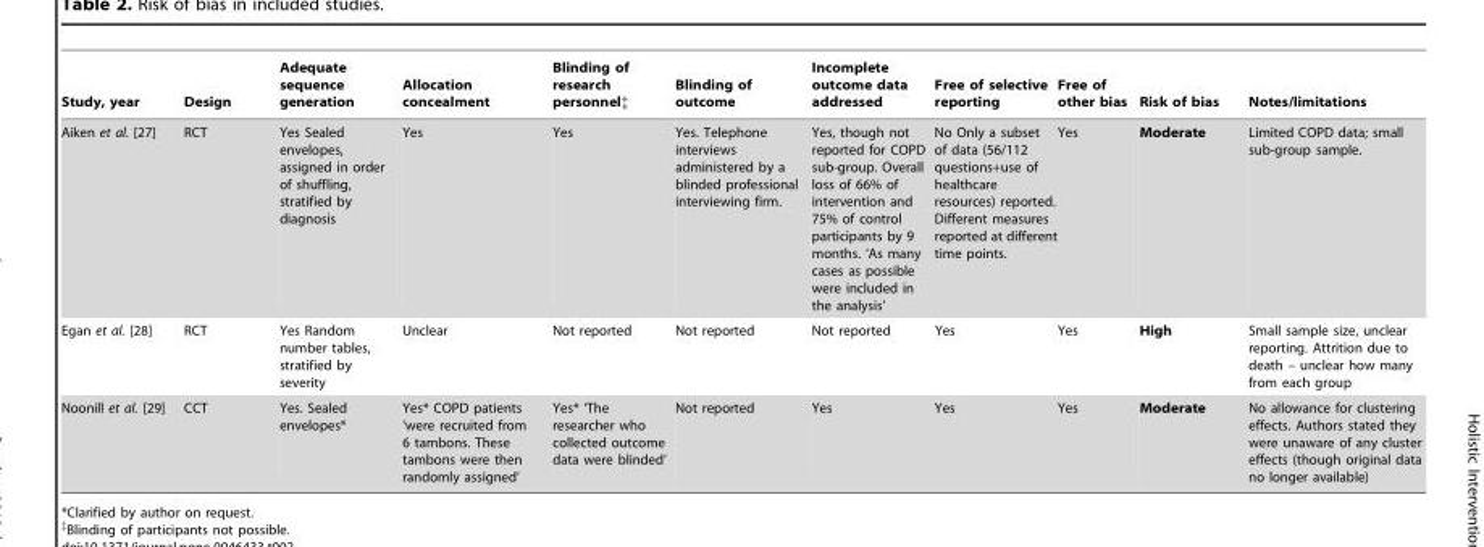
<table><thead><tr><td>Study, year</td><td>Design</td><td>Adequate sequence generation</td><td>Allocation concealment</td><td>Blinding of research personnel‡</td><td>Blinding of outcome</td><td>Incomplete outcome data addressed</td><td>Free of selective reporting</td><td>Free of other bias</td><td>Risk of bias</td><td>Notes/limitations</td></tr></thead><tbody><tr><td>Aiken et al. [27]</td><td>RCT</td><td>Yes Sealed envelopes, assigned in order of shuffling, stratified by diagnosis</td><td>Yes</td><td>Yes</td><td>Yes. Telephone interviews administered by a blinded professional interviewing firm.</td><td>Yes, though not reported for COPD sub-group. Overall loss of 66% of intervention and 75% of control participants by 9 months. ‘As many cases as possible were included in the analysis’</td><td>No Only a subset of data (56/112 questions+use of healthcare resources) reported. Different measures reported at different time points.</td><td>Yes</td><td>Moderate</td><td>Limited COPD data; small sub-group sample.</td></tr><tr><td>Egan et al. [28]</td><td>RCT</td><td>Yes Random number tables, stratified by severity</td><td>Unclear</td><td>Not reported</td><td>Not reported</td><td>Not reported</td><td>Yes</td><td>Yes</td><td>High</td><td>Small sample size, unclear reporting. Attrition due to death – unclear how many from each group</td></tr><tr><td>Noonill et al. [29]</td><td>CCT</td><td>Yes. Sealed envelopes*</td><td>Yes* COPD patients ‘were recruited from 6 tambons. These tambons were then randomly assigned’</td><td>Yes* ‘The researcher who collected outcome data were blinded’</td><td>Not reported</td><td>Yes</td><td>Yes</td><td>Yes</td><td>Moderate</td><td>No allowance for clustering effects. Authors stated they were unaware of any cluster effects (though original data no longer available)</td></tr></tbody></table>